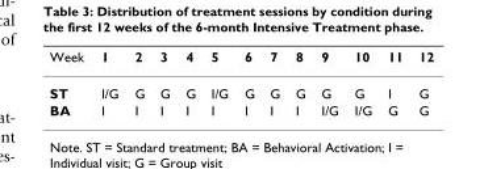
<table><thead><tr><td>Week</td><td>1</td><td>2</td><td>3</td><td>4</td><td>5</td><td>6</td><td>7</td><td>8</td><td>9</td><td>10</td><td>11</td><td>12</td></tr></thead><tbody><tr><td>ST</td><td>I/G</td><td>G</td><td>G</td><td>G</td><td>I/G</td><td>G</td><td>G</td><td>G</td><td>G</td><td>G</td><td>I</td><td>G</td></tr><tr><td>BA</td><td>I</td><td>I</td><td>I</td><td>I</td><td>I</td><td>I</td><td>I</td><td>I</td><td>I/G</td><td>I/G</td><td>G</td><td>G</td></tr></tbody></table>